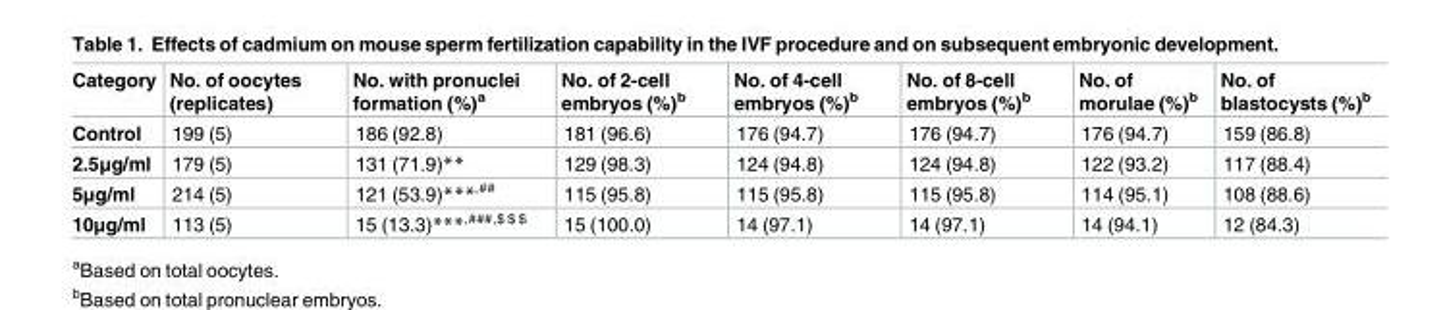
<table><thead><tr><td>Category</td><td>No. of oocytes (replicates)</td><td>No. with pronuclei formation (%)<sup>a</sup></td><td>No. of 2-cell embryos (%)<sup>b</sup></td><td>No. of 4-cell embryos (%)<sup>b</sup></td><td>No. of 8-cell embryos (%)<sup>b</sup></td><td>No. of morulae (%)<sup>b</sup></td><td>No. of blastocysts (%)<sup>b</sup></td></tr></thead><tbody><tr><td>Control</td><td>199 (5)</td><td>186 (92.8)</td><td>181 (96.6)</td><td>176 (94.7)</td><td>176 (94.7)</td><td>176 (94.7)</td><td>159 (86.8)</td></tr><tr><td>2.5μg/ml</td><td>179 (5)</td><td>131 (71.9)**</td><td>129 (98.3)</td><td>124 (94.8)</td><td>124 (94.8)</td><td>122 (93.2)</td><td>117 (88.4)</td></tr><tr><td>5μg/ml</td><td>214 (5)</td><td>121 (53.9)***<sup>,##</sup></td><td>115 (95.8)</td><td>115 (95.8)</td><td>115 (95.8)</td><td>114 (95.1)</td><td>108 (88.6)</td></tr><tr><td>10μg/ml</td><td>113 (5)</td><td>15 (13.3)***<sup>,###,$ $ $</sup></td><td>15 (100.0)</td><td>14 (97.1)</td><td>14 (97.1)</td><td>14 (94.1)</td><td>12 (84.3)</td></tr></tbody></table>